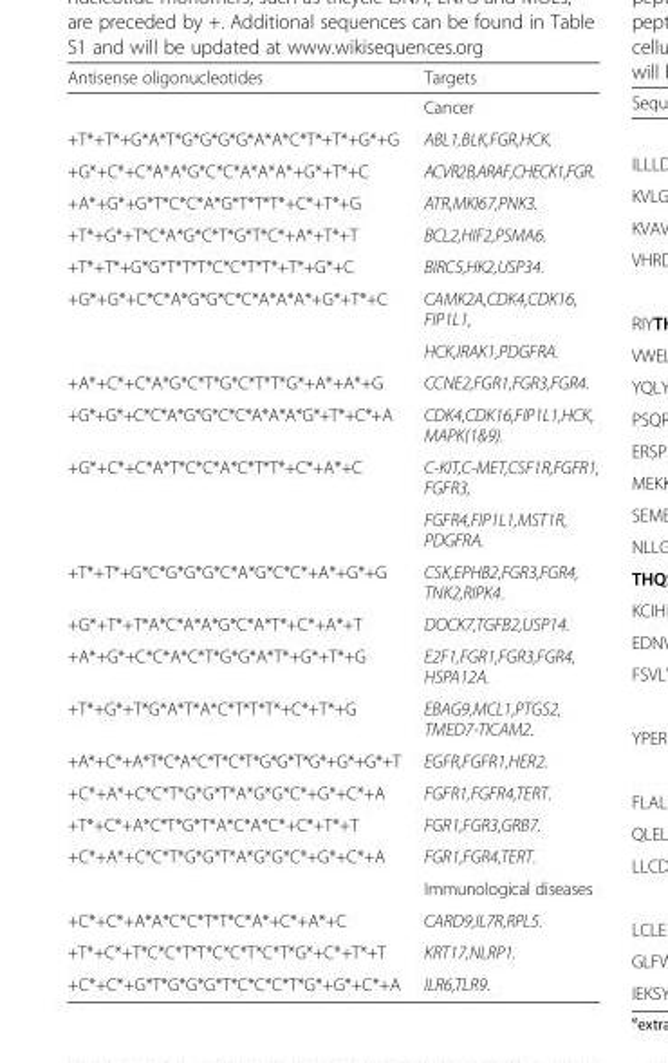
<table><thead><tr><td>Antisense oligonucleotides</td><td>Targets</td></tr></thead><tbody><tr><td></td><td>Cancer</td></tr><tr><td>+T*+T*+G*A*T*G*G*G*G*A*A*C*T*+T*+G*+G</td><td>ABL1,BLK,FGR,HCK.</td></tr><tr><td>+G*+C*+C*A*A*G*C*C*A*A*A*+G*+T*+C</td><td>ACVR2B,ARAF,CHECK1,FGR.</td></tr><tr><td>+A*+G*+G*T*C*C*A*G*T*T*T*+C*+T*+G</td><td>ATR,MKI67,PNK3.</td></tr><tr><td>+T*+G*+T*C*A*G*C*T*G*T*C*+A*+T*+T</td><td>BCL2,HIF2,PSMA6.</td></tr><tr><td>+T*+T*+G*G*T*T*T*C*C*T*T*+T*+G*+C</td><td>BIRC5,HK2,USP34.</td></tr><tr><td rowspan="2">+G*+G*+C*C*A*G*G*C*C*A*A*A*+G*+T*+C</td><td>CAMK2A,CDK4,CDK16, FIP1L1,</td></tr><tr><td>HCK,IRAK1,PDGFRA.</td></tr><tr><td>+A*+C*+C*A*G*C*T*G*C*T*T*G*+A*+A*+G</td><td>CCNE2,FGR1,FGR3,FGR4.</td></tr><tr><td>+G*+G*+C*C*A*G*G*C*C*A*A*A*G*+T*+C*+A</td><td>CDK4,CDK16,FIP1L1,HCK, MAPK(1&amp;9).</td></tr><tr><td rowspan="2">+G*+C*+C*A*T*C*C*A*C*T*T*+C*+A*+C</td><td>C-KIT,C-MET,CSF1R,FGFR1, FGFR3,</td></tr><tr><td>FGFR4,FIP1L1,MST1R, PDGFRA.</td></tr><tr><td>+T*+T*+G*C*G*G*G*C*A*G*C*C*+A*+G*+G</td><td>CSK,EPHB2,FGR3,FGR4, TNK2,RIPK4.</td></tr><tr><td>+G*+T*+T*A*C*A*A*G*C*A*T*+C*+A*+T</td><td>DOCK7,TGFB2,USP14.</td></tr><tr><td>+A*+G*+C*C*A*C*T*G*G*A*T*+G*+T*+G</td><td>E2F1,FGR1,FGR3,FGR4, HSPA12A.</td></tr><tr><td>+T*+G*+T*G*A*T*A*C*T*T*T*+C*+T*+G</td><td>EBAG9,MCL1,PTGS2, TMED7-TICAM2.</td></tr><tr><td>+A*+C*+A*T*C*A*C*T*C*T*G*G*T*G*+G*+G*+T</td><td>EGFR,FGFR1,HER2.</td></tr><tr><td>+C*+A*+C*C*T*G*G*T*A*G*G*C*+G*+C*+A</td><td>FGFR1,FGFR4,TERT.</td></tr><tr><td>+T*+C*+A*C*T*G*T*A*C*A*C*+C*+T*+T</td><td>FGR1,FGR3,GRB7.</td></tr><tr><td rowspan="2">+C*+A*+C*C*T*G*G*T*A*G*G*C*+G*+C*+A</td><td>FGR1,FGR4,TERT.</td></tr><tr><td>Immunological diseases</td></tr><tr><td>+C*+C*+A*A*C*C*T*T*C*A*+C*+A*+C</td><td>CARD9,IL7R,RPL5.</td></tr><tr><td>+T*+C*+T*C*C*T*T*C*C*T*C*T*G*+C*+T*+T</td><td>KRT17,NLRP1.</td></tr><tr><td>+C*+C*+G*T*G*G*G*T*C*C*C*T*G*+G*+C*+A</td><td>ILR6,TLR9.</td></tr></tbody></table>